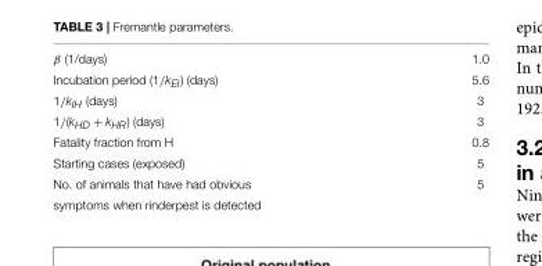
<table><tbody><tr><td>β (1/days)</td><td>1.0</td></tr><tr><td>Incubation period (1/k<sub>EI</sub>) (days)</td><td>5.6</td></tr><tr><td>1/k<sub>IH</sub> (days)</td><td>3</td></tr><tr><td>1/(k<sub>HD</sub> + k<sub>HR</sub>) (days)</td><td>3</td></tr><tr><td>Fatality fraction from H</td><td>0.8</td></tr><tr><td>Starting cases (exposed)</td><td>5</td></tr><tr><td>No. of animals that have had obvious</td><td>5</td></tr><tr><td>symptoms when rinderpest is detected</td><td></td></tr></tbody></table>